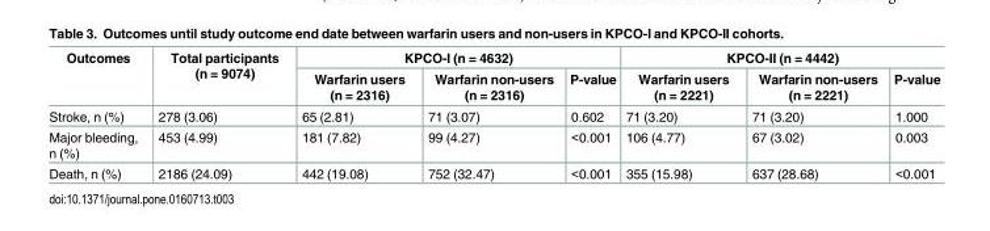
<table><thead><tr><td rowspan="2">Outcomes</td><td rowspan="2">Total participants (n = 9074)</td><td colspan="3">KPCO-I (n = 4632)</td><td colspan="3">KPCO-II (n = 4442)</td></tr><tr><td>Warfarin users (n = 2316)</td><td>Warfarin non-users (n = 2316)</td><td>P-value</td><td>Warfarin users (n = 2221)</td><td>Warfarin non-users (n = 2221)</td><td>P-value</td></tr></thead><tbody><tr><td>Stroke, n (%)</td><td>278 (3.06)</td><td>65 (2.81)</td><td>71 (3.07)</td><td>0.602</td><td>71 (3.20)</td><td>71 (3.20)</td><td>1.000</td></tr><tr><td>Major bleeding, n (%)</td><td>453 (4.99)</td><td>181 (7.82)</td><td>99 (4.27)</td><td>&lt;0.001</td><td>106 (4.77)</td><td>67 (3.02)</td><td>0.003</td></tr><tr><td>Death, n (%)</td><td>2186 (24.09)</td><td>442 (19.08)</td><td>752 (32.47)</td><td>&lt;0.001</td><td>355 (15.98)</td><td>637 (28.68)</td><td>&lt;0.001</td></tr></tbody></table>